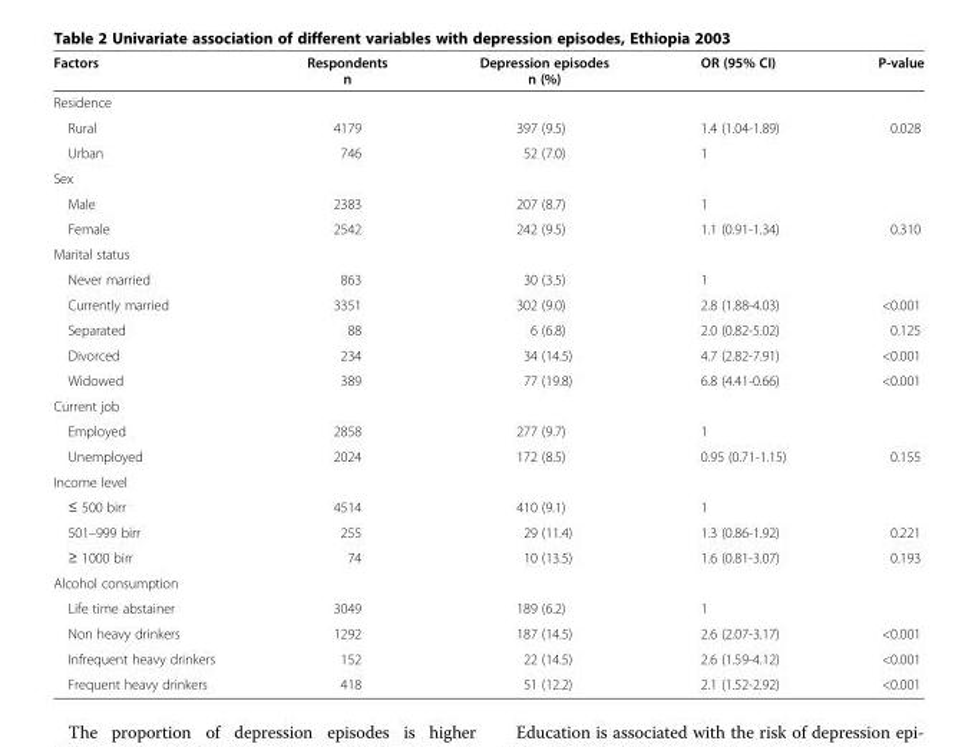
<table><thead><tr><td>Factors</td><td>Respondents n</td><td>Depression episodes n (%)</td><td>OR (95% CI)</td><td>P-value</td></tr></thead><tbody><tr><td colspan="5">Residence</td></tr><tr><td>Rural</td><td>4179</td><td>397 (9.5)</td><td>1.4 (1.04-1.89)</td><td>0.028</td></tr><tr><td>Urban</td><td>746</td><td>52 (7.0)</td><td>1</td><td></td></tr><tr><td colspan="5">Sex</td></tr><tr><td>Male</td><td>2383</td><td>207 (8.7)</td><td>1</td><td></td></tr><tr><td>Female</td><td>2542</td><td>242 (9.5)</td><td>1.1 (0.91-1.34)</td><td>0.310</td></tr><tr><td colspan="5">Marital status</td></tr><tr><td>Never married</td><td>863</td><td>30 (3.5)</td><td>1</td><td></td></tr><tr><td>Currently married</td><td>3351</td><td>302 (9.0)</td><td>2.8 (1.88-4.03)</td><td>&lt;0.001</td></tr><tr><td>Separated</td><td>88</td><td>6 (6.8)</td><td>2.0 (0.82-5.02)</td><td>0.125</td></tr><tr><td>Divorced</td><td>234</td><td>34 (14.5)</td><td>4.7 (2.82-7.91)</td><td>&lt;0.001</td></tr><tr><td>Widowed</td><td>389</td><td>77 (19.8)</td><td>6.8 (4.41-0.66)</td><td>&lt;0.001</td></tr><tr><td colspan="5">Current job</td></tr><tr><td>Employed</td><td>2858</td><td>277 (9.7)</td><td>1</td><td></td></tr><tr><td>Unemployed</td><td>2024</td><td>172 (8.5)</td><td>0.95 (0.71-1.15)</td><td>0.155</td></tr><tr><td colspan="5">Income level</td></tr><tr><td>≤ 500 birr</td><td>4514</td><td>410 (9.1)</td><td>1</td><td></td></tr><tr><td>501–999 birr</td><td>255</td><td>29 (11.4)</td><td>1.3 (0.86-1.92)</td><td>0.221</td></tr><tr><td>≥ 1000 birr</td><td>74</td><td>10 (13.5)</td><td>1.6 (0.81-3.07)</td><td>0.193</td></tr><tr><td colspan="5">Alcohol consumption</td></tr><tr><td>Life time abstainer</td><td>3049</td><td>189 (6.2)</td><td>1</td><td></td></tr><tr><td>Non heavy drinkers</td><td>1292</td><td>187 (14.5)</td><td>2.6 (2.07-3.17)</td><td>&lt;0.001</td></tr><tr><td>Infrequent heavy drinkers</td><td>152</td><td>22 (14.5)</td><td>2.6 (1.59-4.12)</td><td>&lt;0.001</td></tr><tr><td>Frequent heavy drinkers</td><td>418</td><td>51 (12.2)</td><td>2.1 (1.52-2.92)</td><td>&lt;0.001</td></tr></tbody></table>